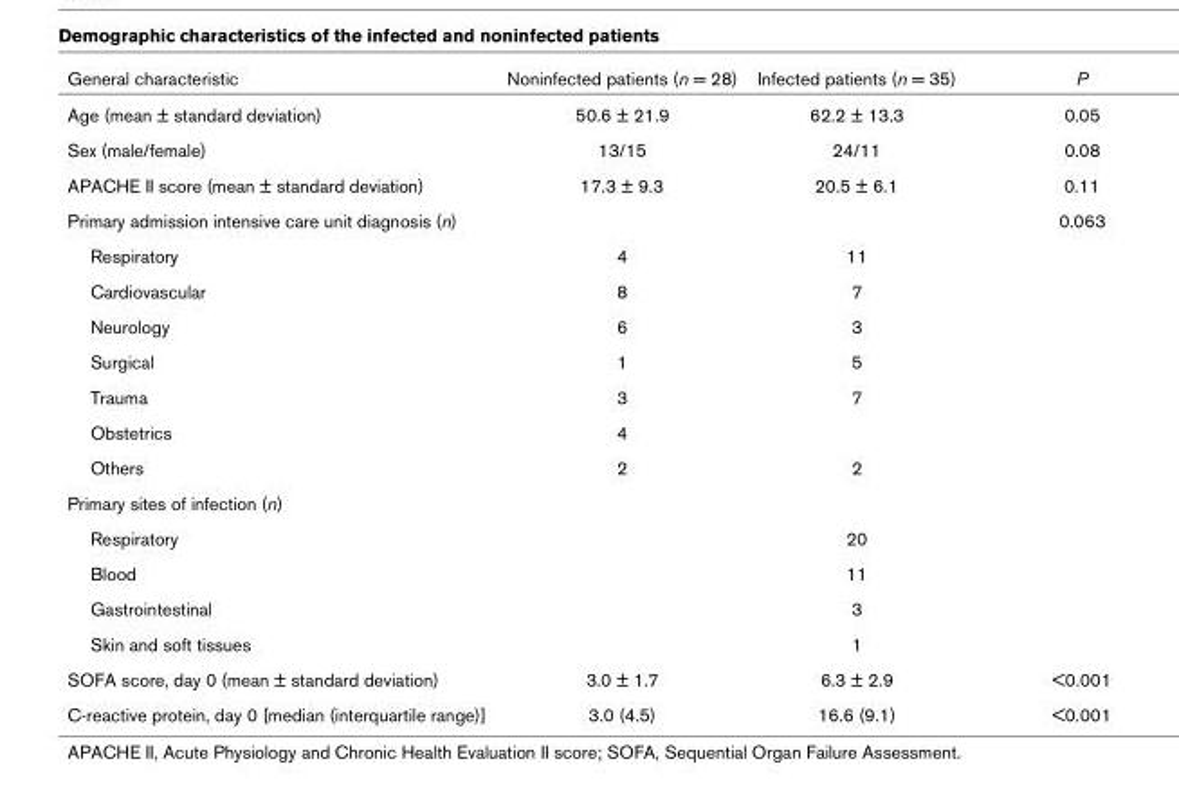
<table><thead><tr><td>General characteristic</td><td>Noninfected patients (n = 28)</td><td>Infected patients (n = 35)</td><td>P</td></tr></thead><tbody><tr><td>Age (mean ± standard deviation)</td><td>50.6 ± 21.9</td><td>62.2 ± 13.3</td><td>0.05</td></tr><tr><td>Sex (male/female)</td><td>13/15</td><td>24/11</td><td>0.08</td></tr><tr><td>APACHE II score (mean ± standard deviation)</td><td>17.3 ± 9.3</td><td>20.5 ± 6.1</td><td>0.11</td></tr><tr><td>Primary admission intensive care unit diagnosis (n)</td><td></td><td></td><td>0.063</td></tr><tr><td>Respiratory</td><td>4</td><td>11</td><td></td></tr><tr><td>Cardiovascular</td><td>8</td><td>7</td><td></td></tr><tr><td>Neurology</td><td>6</td><td>3</td><td></td></tr><tr><td>Surgical</td><td>1</td><td>5</td><td></td></tr><tr><td>Trauma</td><td>3</td><td>7</td><td></td></tr><tr><td>Obstetrics</td><td>4</td><td></td><td></td></tr><tr><td>Others</td><td>2</td><td>2</td><td></td></tr><tr><td colspan="4">Primary sites of infection (n)</td></tr><tr><td>Respiratory</td><td></td><td>20</td><td></td></tr><tr><td>Blood</td><td></td><td>11</td><td></td></tr><tr><td>Gastrointestinal</td><td></td><td>3</td><td></td></tr><tr><td>Skin and soft tissues</td><td></td><td>1</td><td></td></tr><tr><td>SOFA score, day 0 (mean ± standard deviation)</td><td>3.0 ± 1.7</td><td>6.3 ± 2.9</td><td>&lt;0.001</td></tr><tr><td>C-reactive protein, day 0 [median (interquartile range)]</td><td>3.0 (4.5)</td><td>16.6 (9.1)</td><td>&lt;0.001</td></tr></tbody></table>